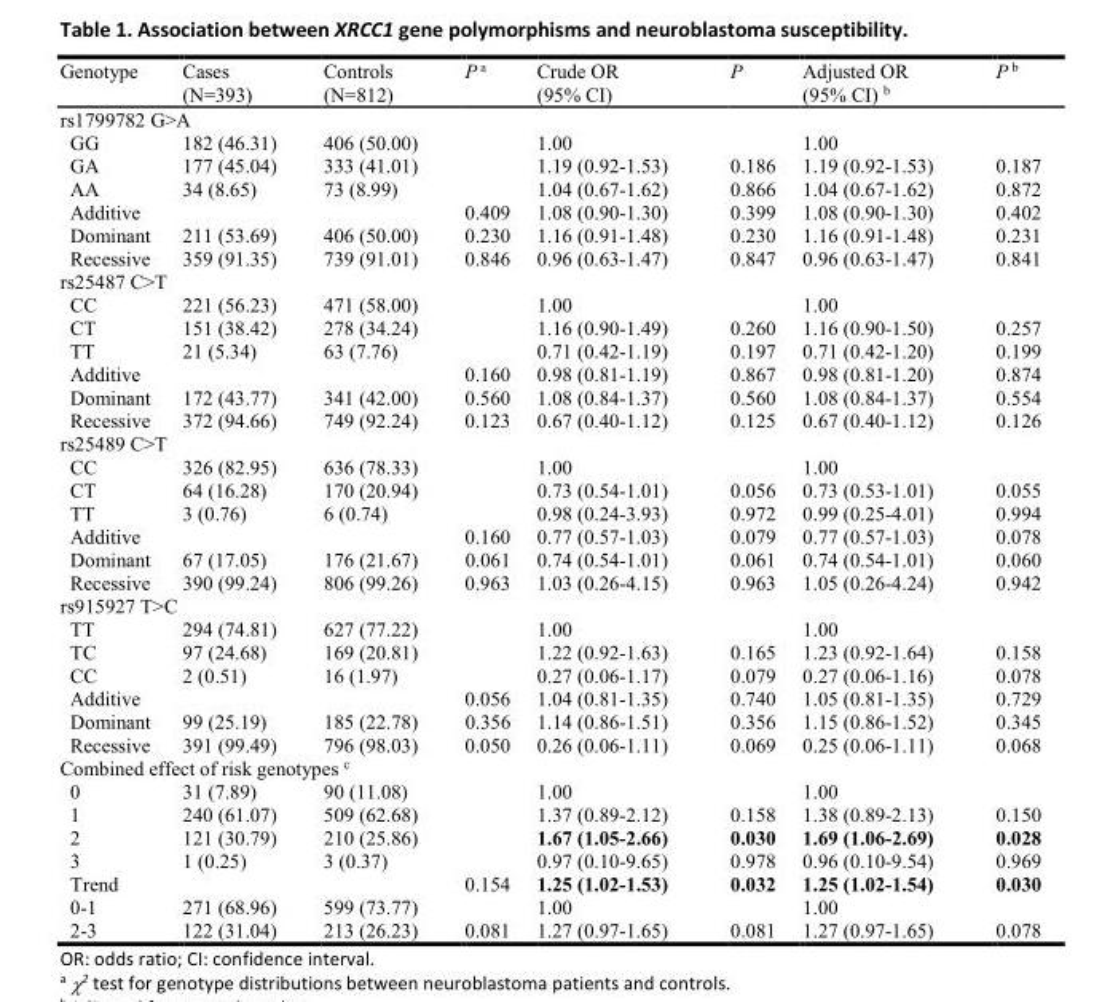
<table><tbody><tr><td>Genotype</td><td>Cases (N=393)</td><td>Controls (N=812)</td><td>P <sup>a</sup></td><td>Crude OR (95% CI)</td><td>P</td><td>Adjusted OR (95% CI) <sup>b</sup></td><td>P <sup>b</sup></td></tr><tr><td colspan="8">rs1799782 G&gt;A</td></tr><tr><td>GG</td><td>182 (46.31)</td><td>406 (50.00)</td><td></td><td>1.00</td><td></td><td>1.00</td><td></td></tr><tr><td>GA</td><td>177 (45.04)</td><td>333 (41.01)</td><td></td><td>1.19 (0.92-1.53)</td><td>0.186</td><td>1.19 (0.92-1.53)</td><td>0.187</td></tr><tr><td>AA</td><td>34 (8.65)</td><td>73 (8.99)</td><td></td><td>1.04 (0.67-1.62)</td><td>0.866</td><td>1.04 (0.67-1.62)</td><td>0.872</td></tr><tr><td>Additive</td><td></td><td></td><td>0.409</td><td>1.08 (0.90-1.30)</td><td>0.399</td><td>1.08 (0.90-1.30)</td><td>0.402</td></tr><tr><td>Dominant</td><td>211 (53.69)</td><td>406 (50.00)</td><td>0.230</td><td>1.16 (0.91-1.48)</td><td>0.230</td><td>1.16 (0.91-1.48)</td><td>0.231</td></tr><tr><td>Recessive</td><td>359 (91.35)</td><td>739 (91.01)</td><td>0.846</td><td>0.96 (0.63-1.47)</td><td>0.847</td><td>0.96 (0.63-1.47)</td><td>0.841</td></tr><tr><td colspan="8">rs25487 C&gt;T</td></tr><tr><td>CC</td><td>221 (56.23)</td><td>471 (58.00)</td><td></td><td>1.00</td><td></td><td>1.00</td><td></td></tr><tr><td>CT</td><td>151 (38.42)</td><td>278 (34.24)</td><td></td><td>1.16 (0.90-1.49)</td><td>0.260</td><td>1.16 (0.90-1.50)</td><td>0.257</td></tr><tr><td>TT</td><td>21 (5.34)</td><td>63 (7.76)</td><td></td><td>0.71 (0.42-1.19)</td><td>0.197</td><td>0.71 (0.42-1.20)</td><td>0.199</td></tr><tr><td>Additive</td><td></td><td></td><td>0.160</td><td>0.98 (0.81-1.19)</td><td>0.867</td><td>0.98 (0.81-1.20)</td><td>0.874</td></tr><tr><td>Dominant</td><td>172 (43.77)</td><td>341 (42.00)</td><td>0.560</td><td>1.08 (0.84-1.37)</td><td>0.560</td><td>1.08 (0.84-1.37)</td><td>0.554</td></tr><tr><td>Recessive</td><td>372 (94.66)</td><td>749 (92.24)</td><td>0.123</td><td>0.67 (0.40-1.12)</td><td>0.125</td><td>0.67 (0.40-1.12)</td><td>0.126</td></tr><tr><td colspan="8">rs25489 C&gt;T</td></tr><tr><td>CC</td><td>326 (82.95)</td><td>636 (78.33)</td><td></td><td>1.00</td><td></td><td>1.00</td><td></td></tr><tr><td>CT</td><td>64 (16.28)</td><td>170 (20.94)</td><td></td><td>0.73 (0.54-1.01)</td><td>0.056</td><td>0.73 (0.53-1.01)</td><td>0.055</td></tr><tr><td>TT</td><td>3 (0.76)</td><td>6 (0.74)</td><td></td><td>0.98 (0.24-3.93)</td><td>0.972</td><td>0.99 (0.25-4.01)</td><td>0.994</td></tr><tr><td>Additive</td><td></td><td></td><td>0.160</td><td>0.77 (0.57-1.03)</td><td>0.079</td><td>0.77 (0.57-1.03)</td><td>0.078</td></tr><tr><td>Dominant</td><td>67 (17.05)</td><td>176 (21.67)</td><td>0.061</td><td>0.74 (0.54-1.01)</td><td>0.061</td><td>0.74 (0.54-1.01)</td><td>0.060</td></tr><tr><td>Recessive</td><td>390 (99.24)</td><td>806 (99.26)</td><td>0.963</td><td>1.03 (0.26-4.15)</td><td>0.963</td><td>1.05 (0.26-4.24)</td><td>0.942</td></tr><tr><td colspan="8">rs915927 T&gt;C</td></tr><tr><td>TT</td><td>294 (74.81)</td><td>627 (77.22)</td><td></td><td>1.00</td><td></td><td>1.00</td><td></td></tr><tr><td>TC</td><td>97 (24.68)</td><td>169 (20.81)</td><td></td><td>1.22 (0.92-1.63)</td><td>0.165</td><td>1.23 (0.92-1.64)</td><td>0.158</td></tr><tr><td>CC</td><td>2 (0.51)</td><td>16 (1.97)</td><td></td><td>0.27 (0.06-1.17)</td><td>0.079</td><td>0.27 (0.06-1.16)</td><td>0.078</td></tr><tr><td>Additive</td><td></td><td></td><td>0.056</td><td>1.04 (0.81-1.35)</td><td>0.740</td><td>1.05 (0.81-1.35)</td><td>0.729</td></tr><tr><td>Dominant</td><td>99 (25.19)</td><td>185 (22.78)</td><td>0.356</td><td>1.14 (0.86-1.51)</td><td>0.356</td><td>1.15 (0.86-1.52)</td><td>0.345</td></tr><tr><td>Recessive</td><td>391 (99.49)</td><td>796 (98.03)</td><td>0.050</td><td>0.26 (0.06-1.11)</td><td>0.069</td><td>0.25 (0.06-1.11)</td><td>0.068</td></tr><tr><td colspan="8">Combined effect of risk genotypes <sup>c</sup></td></tr><tr><td>0</td><td>31 (7.89)</td><td>90 (11.08)</td><td></td><td>1.00</td><td></td><td>1.00</td><td></td></tr><tr><td>1</td><td>240 (61.07)</td><td>509 (62.68)</td><td></td><td>1.37 (0.89-2.12)</td><td>0.158</td><td>1.38 (0.89-2.13)</td><td>0.150</td></tr><tr><td>2</td><td>121 (30.79)</td><td>210 (25.86)</td><td></td><td>1.67 (1.05-2.66)</td><td>0.030</td><td>1.69 (1.06-2.69)</td><td>0.028</td></tr><tr><td>3</td><td>1 (0.25)</td><td>3 (0.37)</td><td></td><td>0.97 (0.10-9.65)</td><td>0.978</td><td>0.96 (0.10-9.54)</td><td>0.969</td></tr><tr><td>Trend</td><td></td><td></td><td>0.154</td><td>1.25 (1.02-1.53)</td><td>0.032</td><td>1.25 (1.02-1.54)</td><td>0.030</td></tr><tr><td>0-1</td><td>271 (68.96)</td><td>599 (73.77)</td><td></td><td>1.00</td><td></td><td>1.00</td><td></td></tr><tr><td>2-3</td><td>122 (31.04)</td><td>213 (26.23)</td><td>0.081</td><td>1.27 (0.97-1.65)</td><td>0.081</td><td>1.27 (0.97-1.65)</td><td>0.078</td></tr></tbody></table>